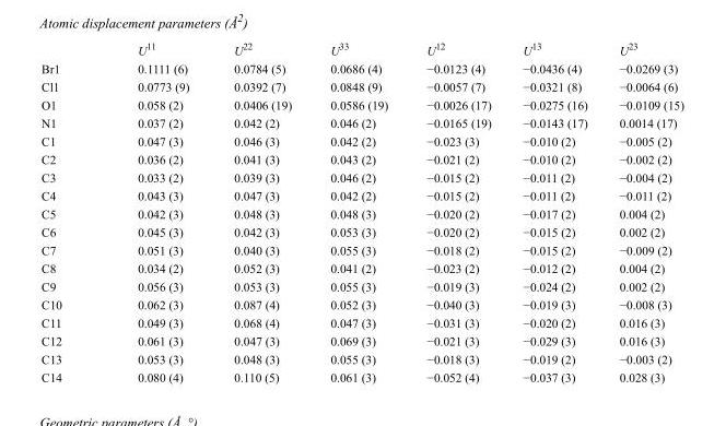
<table><thead><tr><td></td><td>U<sup>11</sup></td><td>U<sup>22</sup></td><td>U<sup>33</sup></td><td>U<sup>12</sup></td><td>U<sup>13</sup></td><td>U<sup>23</sup></td></tr></thead><tbody><tr><td>Br1</td><td>0.1111 (6)</td><td>0.0784 (5)</td><td>0.0686 (4)</td><td>−0.0123 (4)</td><td>−0.0436 (4)</td><td>−0.0269 (3)</td></tr><tr><td>Cl1</td><td>0.0773 (9)</td><td>0.0392 (7)</td><td>0.0848 (9)</td><td>−0.0057 (7)</td><td>−0.0321 (8)</td><td>−0.0064 (6)</td></tr><tr><td>O1</td><td>0.058 (2)</td><td>0.0406 (19)</td><td>0.0586 (19)</td><td>−0.0026 (17)</td><td>−0.0275 (16)</td><td>−0.0109 (15)</td></tr><tr><td>N1</td><td>0.037 (2)</td><td>0.042 (2)</td><td>0.046 (2)</td><td>−0.0165 (19)</td><td>−0.0143 (17)</td><td>0.0014 (17)</td></tr><tr><td>C1</td><td>0.047 (3)</td><td>0.046 (3)</td><td>0.042 (2)</td><td>−0.023 (3)</td><td>−0.010 (2)</td><td>−0.005 (2)</td></tr><tr><td>C2</td><td>0.036 (2)</td><td>0.041 (3)</td><td>0.043 (2)</td><td>−0.021 (2)</td><td>−0.010 (2)</td><td>−0.002 (2)</td></tr><tr><td>C3</td><td>0.033 (2)</td><td>0.039 (3)</td><td>0.046 (2)</td><td>−0.015 (2)</td><td>−0.011 (2)</td><td>−0.004 (2)</td></tr><tr><td>C4</td><td>0.043 (3)</td><td>0.047 (3)</td><td>0.042 (2)</td><td>−0.015 (2)</td><td>−0.011 (2)</td><td>−0.011 (2)</td></tr><tr><td>C5</td><td>0.042 (3)</td><td>0.048 (3)</td><td>0.048 (3)</td><td>−0.020 (2)</td><td>−0.017 (2)</td><td>0.004 (2)</td></tr><tr><td>C6</td><td>0.045 (3)</td><td>0.042 (3)</td><td>0.053 (3)</td><td>−0.020 (2)</td><td>−0.015 (2)</td><td>0.002 (2)</td></tr><tr><td>C7</td><td>0.051 (3)</td><td>0.040 (3)</td><td>0.055 (3)</td><td>−0.018 (2)</td><td>−0.015 (2)</td><td>−0.009 (2)</td></tr><tr><td>C8</td><td>0.034 (2)</td><td>0.052 (3)</td><td>0.041 (2)</td><td>−0.023 (2)</td><td>−0.012 (2)</td><td>0.004 (2)</td></tr><tr><td>C9</td><td>0.056 (3)</td><td>0.053 (3)</td><td>0.055 (3)</td><td>−0.019 (3)</td><td>−0.024 (2)</td><td>0.002 (2)</td></tr><tr><td>C10</td><td>0.062 (3)</td><td>0.087 (4)</td><td>0.052 (3)</td><td>−0.040 (3)</td><td>−0.019 (3)</td><td>−0.008 (3)</td></tr><tr><td>C11</td><td>0.049 (3)</td><td>0.068 (4)</td><td>0.047 (3)</td><td>−0.031 (3)</td><td>−0.020 (2)</td><td>0.016 (3)</td></tr><tr><td>C12</td><td>0.061 (3)</td><td>0.047 (3)</td><td>0.069 (3)</td><td>−0.021 (3)</td><td>−0.029 (3)</td><td>0.016 (3)</td></tr><tr><td>C13</td><td>0.053 (3)</td><td>0.048 (3)</td><td>0.055 (3)</td><td>−0.018 (3)</td><td>−0.019 (2)</td><td>−0.003 (2)</td></tr><tr><td>C14</td><td>0.080 (4)</td><td>0.110 (5)</td><td>0.061 (3)</td><td>−0.052 (4)</td><td>−0.037 (3)</td><td>0.028 (3)</td></tr></tbody></table>